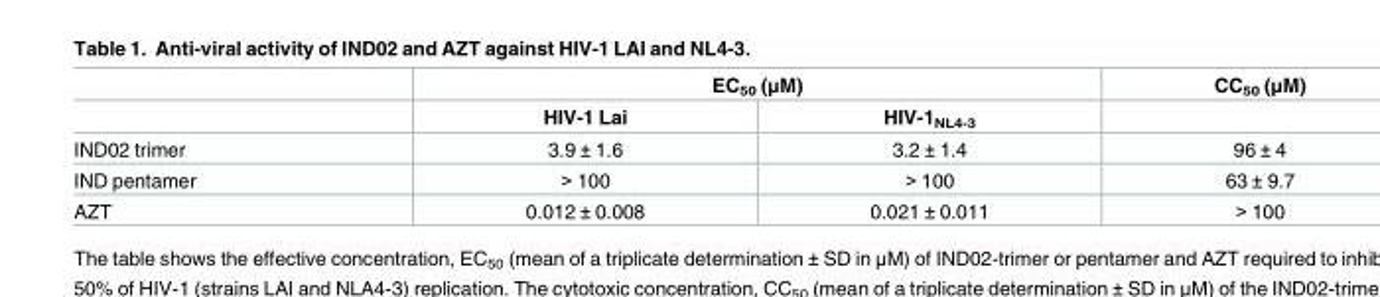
<table><thead><tr><td rowspan="2"></td><td colspan="2">EC<sub>50</sub> (μM)</td><td rowspan="2">CC<sub>50</sub> (μM)</td></tr><tr><td>HIV-1 Lai</td><td>HIV-1<sub>NL4-3</sub></td></tr></thead><tbody><tr><td>IND02 trimer</td><td>3.9 ± 1.6</td><td>3.2 ± 1.4</td><td>96 ± 4</td></tr><tr><td>IND pentamer</td><td>&gt; 100</td><td>&gt; 100</td><td>63 ± 9.7</td></tr><tr><td>AZT</td><td>0.012 ± 0.008</td><td>0.021 ± 0.011</td><td>&gt; 100</td></tr></tbody></table>